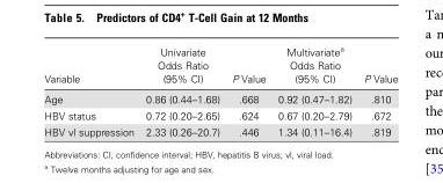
<table><thead><tr><td rowspan="2">Variable</td><td rowspan="2">Univariate Odds Ratio (95% CI)</td><td rowspan="2">P Value</td><td rowspan="2">Multivariate<sup>a</sup> Odds Ratio (95% CI)</td><td rowspan="2">P Value</td></tr><tr></tr></thead><tbody><tr><td>Age</td><td>0.86 (0.44–1.68)</td><td>.668</td><td>0.92 (0.47–1.82)</td><td>.810</td></tr><tr><td>HBV status</td><td>0.72 (0.20–2.65)</td><td>.624</td><td>0.67 (0.20–2.79)</td><td>.672</td></tr><tr><td>HBV vl suppression</td><td>2.33 (0.26–20.7)</td><td>.446</td><td>1.34 (0.11–16.4)</td><td>.819</td></tr></tbody></table>